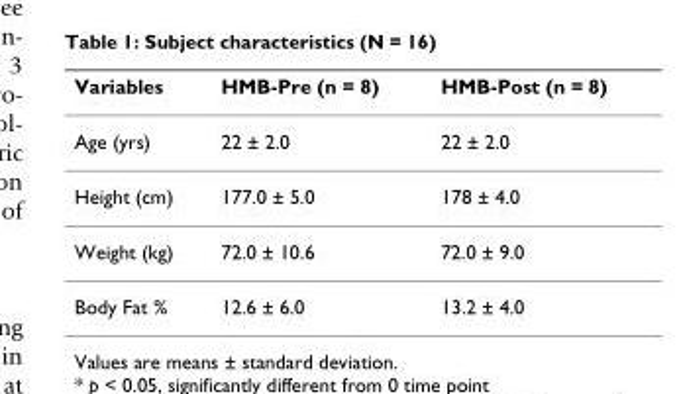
<table><thead><tr><td>Variables</td><td>HMB-Pre (n = 8)</td><td>HMB-Post (n = 8)</td></tr></thead><tbody><tr><td>Age (yrs)</td><td>22 ± 2.0</td><td>22 ± 2.0</td></tr><tr><td>Height (cm)</td><td>177.0 ± 5.0</td><td>178 ± 4.0</td></tr><tr><td>Weight (kg)</td><td>72.0 ± 10.6</td><td>72.0 ± 9.0</td></tr><tr><td>Body Fat %</td><td>12.6 ± 6.0</td><td>13.2 ± 4.0</td></tr></tbody></table>